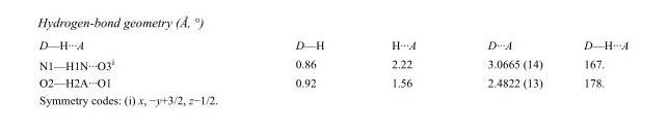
<table><tbody><tr><td>D—H···A</td><td>D—H</td><td>H···A</td><td>D···A</td><td>D—H···A</td></tr><tr><td>N1—H1N···O3<sup>i</sup></td><td>0.86</td><td>2.22</td><td>3.0665 (14)</td><td>167.</td></tr><tr><td>O2—H2A···O1</td><td>0.92</td><td>1.56</td><td>2.4822 (13)</td><td>178.</td></tr></tbody></table>